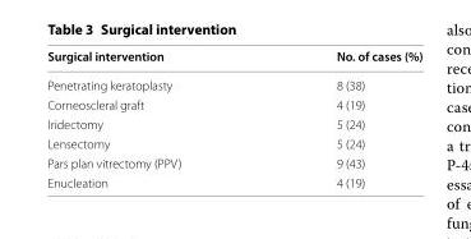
<table><thead><tr><td>Surgical intervention</td><td>No. of cases (%)</td></tr></thead><tbody><tr><td>Penetrating keratoplasty</td><td>8 (38)</td></tr><tr><td>Corneoscleral graft</td><td>4 (19)</td></tr><tr><td>Iridectomy</td><td>5 (24)</td></tr><tr><td>Lensectomy</td><td>5 (24)</td></tr><tr><td>Pars plan vitrectomy (PPV)</td><td>9 (43)</td></tr><tr><td>Enucleation</td><td>4 (19)</td></tr></tbody></table>